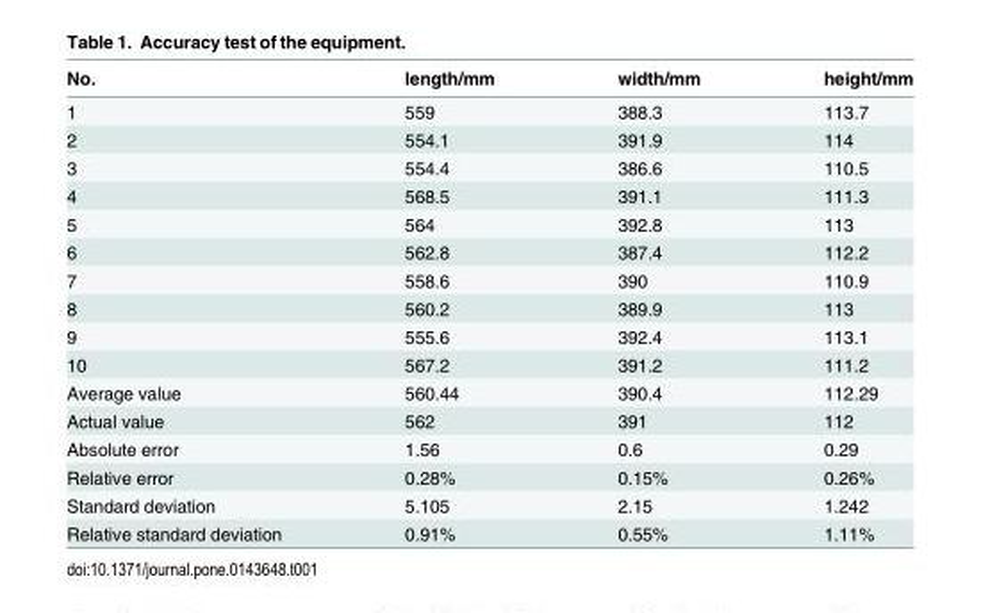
<table><thead><tr><td>No.</td><td>length/mm</td><td>width/mm</td><td>height/mm</td></tr></thead><tbody><tr><td>1</td><td>559</td><td>388.3</td><td>113.7</td></tr><tr><td>2</td><td>554.1</td><td>391.9</td><td>114</td></tr><tr><td>3</td><td>554.4</td><td>386.6</td><td>110.5</td></tr><tr><td>4</td><td>568.5</td><td>391.1</td><td>111.3</td></tr><tr><td>5</td><td>564</td><td>392.8</td><td>113</td></tr><tr><td>6</td><td>562.8</td><td>387.4</td><td>112.2</td></tr><tr><td>7</td><td>558.6</td><td>390</td><td>110.9</td></tr><tr><td>8</td><td>560.2</td><td>389.9</td><td>113</td></tr><tr><td>9</td><td>555.6</td><td>392.4</td><td>113.1</td></tr><tr><td>10</td><td>567.2</td><td>391.2</td><td>111.2</td></tr><tr><td>Average value</td><td>560.44</td><td>390.4</td><td>112.29</td></tr><tr><td>Actual value</td><td>562</td><td>391</td><td>112</td></tr><tr><td>Absolute error</td><td>1.56</td><td>0.6</td><td>0.29</td></tr><tr><td>Relative error</td><td>0.28%</td><td>0.15%</td><td>0.26%</td></tr><tr><td>Standard deviation</td><td>5.105</td><td>2.15</td><td>1.242</td></tr><tr><td>Relative standard deviation</td><td>0.91%</td><td>0.55%</td><td>1.11%</td></tr></tbody></table>